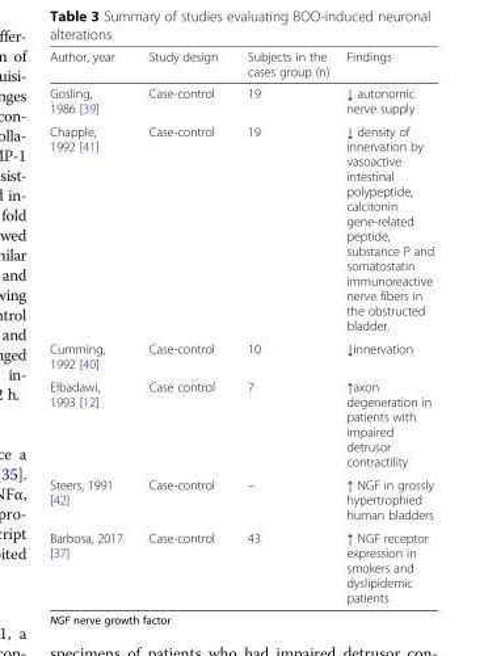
<table><thead><tr><td>Author, year</td><td>Study design</td><td>Subjects in the cases group (n)</td><td>Findings</td></tr></thead><tbody><tr><td>Gosling, 1986 [39]</td><td>Case-control</td><td>19</td><td>↓ autonomic nerve supply</td></tr><tr><td>Chapple, 1992 [41]</td><td>Case-control</td><td>19</td><td>↓ density of innervation by vasoactive intestinal polypeptide, calcitonin gene-related peptide, substance P and somatostatin immunoreactive nerve fibers in the obstructed bladder.</td></tr><tr><td>Cumming, 1992 [40]</td><td>Case-control</td><td>10</td><td>↓innervation</td></tr><tr><td>Elbadawi, 1993 [12]</td><td>Case control</td><td>7</td><td>↑axon degeneration in patients with impaired detrusor contractility</td></tr><tr><td>Steers, 1991 [42]</td><td>Case-control</td><td>–</td><td>↑ NGF in grossly hypertrophied human bladders</td></tr><tr><td>Barbosa, 2017 [37]</td><td>Case-control</td><td>43</td><td>↑ NGF receptor expression in smokers and dyslipidemic patients</td></tr></tbody></table>